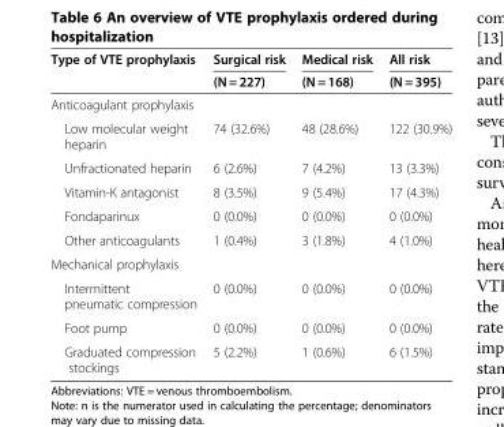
<table><thead><tr><td rowspan="2">Type of VTE prophylaxis</td><td rowspan="2">Surgical risk (N = 227)</td><td rowspan="2">Medical risk (N = 168)</td><td rowspan="2">All risk (N = 395)</td></tr><tr></tr></thead><tbody><tr><td colspan="4">Anticoagulant prophylaxis</td></tr><tr><td>Low molecular weight heparin</td><td>74 (32.6%)</td><td>48 (28.6%)</td><td>122 (30.9%)</td></tr><tr><td>Unfractionated heparin</td><td>6 (2.6%)</td><td>7 (4.2%)</td><td>13 (3.3%)</td></tr><tr><td>Vitamin-K antagonist</td><td>8 (3.5%)</td><td>9 (5.4%)</td><td>17 (4.3%)</td></tr><tr><td>Fondaparinux</td><td>0 (0.0%)</td><td>0 (0.0%)</td><td>0 (0.0%)</td></tr><tr><td>Other anticoagulants</td><td>1 (0.4%)</td><td>3 (1.8%)</td><td>4 (1.0%)</td></tr><tr><td colspan="4">Mechanical prophylaxis</td></tr><tr><td>Intermittent pneumatic compression</td><td>0 (0.0%)</td><td>0 (0.0%)</td><td>0 (0.0%)</td></tr><tr><td>Foot pump</td><td>0 (0.0%)</td><td>0 (0.0%)</td><td>0 (0.0%)</td></tr><tr><td>Graduated compression stockings</td><td>5 (2.2%)</td><td>1 (0.6%)</td><td>6 (1.5%)</td></tr></tbody></table>